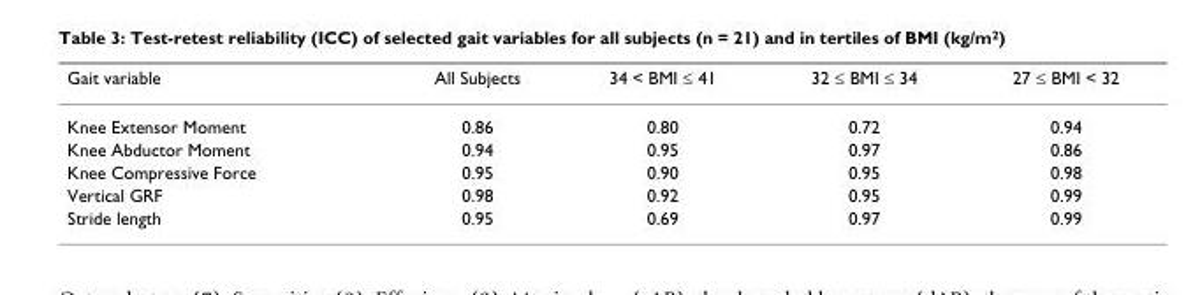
<table><thead><tr><td>Gait variable</td><td>All Subjects</td><td>34 &lt; BMI ≤ 41</td><td>32 ≤ BMI ≤ 34</td><td>27 ≤ BMI &lt; 32</td></tr></thead><tbody><tr><td>Knee Extensor Moment</td><td>0.86</td><td>0.80</td><td>0.72</td><td>0.94</td></tr><tr><td>Knee Abductor Moment</td><td>0.94</td><td>0.95</td><td>0.97</td><td>0.86</td></tr><tr><td>Knee Compressive Force</td><td>0.95</td><td>0.90</td><td>0.95</td><td>0.98</td></tr><tr><td>Vertical GRF</td><td>0.98</td><td>0.92</td><td>0.95</td><td>0.99</td></tr><tr><td>Stride length</td><td>0.95</td><td>0.69</td><td>0.97</td><td>0.99</td></tr></tbody></table>